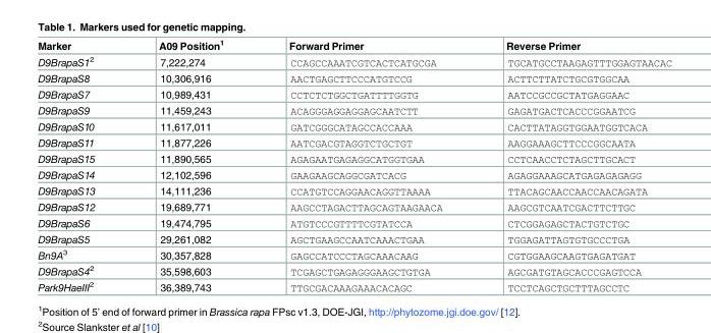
<table><thead><tr><td>Marker</td><td>A09 Position<sup>1</sup></td><td>Forward Primer</td><td>Reverse Primer</td></tr></thead><tbody><tr><td>D9BrapaS1<sup>2</sup></td><td>7,222,274</td><td>CCAGCCAAATCGTCACTCATGCGA</td><td>TGCATGCCTAAGAGTTTGGAGTAACAC</td></tr><tr><td>D9BrapaS8</td><td>10,306,916</td><td>AACTGAGCTTCCCATGTCCG</td><td>ACTTCTTATCTGCGTGGCAA</td></tr><tr><td>D9BrapaS7</td><td>10,989,431</td><td>CCTCTCTGGCTGATTTTGGTG</td><td>AATCCGCCGCTATGAGGAAC</td></tr><tr><td>D9BrapaS9</td><td>11,459,243</td><td>ACAGGGAGGAGGAGCAATCTT</td><td>GAGATGACTCACCCGGAATCG</td></tr><tr><td>D9BrapaS10</td><td>11,617,011</td><td>GATCGGGCATAGCCACCAAA</td><td>CACTTATAGGTGGAATGGTCACA</td></tr><tr><td>D9BrapaS11</td><td>11,877,226</td><td>AATCGACGTAGGTCTGCTGT</td><td>AAGGAAAGCTTCCCGGCAATA</td></tr><tr><td>D9BrapaS15</td><td>11,890,565</td><td>AGAGAATGAGAGGCATGGTGAA</td><td>CCTCAACCTCTAGCTTGCACT</td></tr><tr><td>D9BrapaS14</td><td>12,102,596</td><td>GAAGAAGCAGGCGATCACG</td><td>AGAGGAAAGCATGAGAGAGAGG</td></tr><tr><td>D9BrapaS13</td><td>14,111,236</td><td>CCATGTCCAGGAACAGGTTAAAA</td><td>TTACAGCAACCAACCAACAGATA</td></tr><tr><td>D9BrapaS12</td><td>19,689,771</td><td>AAGCCTAGACTTAGCAGTAAGAACA</td><td>AAGCGTCAATCGACTTCTTGC</td></tr><tr><td>D9BrapaS6</td><td>19,474,795</td><td>ATGTCCCGTTTTCGTATCCA</td><td>CTCGGAGAGCTACTGTCTGC</td></tr><tr><td>D9BrapaS5</td><td>29,261,082</td><td>AGCTGAAGCCAATCAAACTGAA</td><td>TGGAGATTAGTGTGCCCTGA</td></tr><tr><td>Bn9A<sup>3</sup></td><td>30,357,828</td><td>GAGCCATCCCTAGCAAACAAG</td><td>CGTGGAAGCAAGTGAGATGAT</td></tr><tr><td>D9BrapaS4<sup>2</sup></td><td>35,598,603</td><td>TCGAGCTGAGAGGGAAGCTGTGA</td><td>AGCGATGTAGCACCCGAGTCCA</td></tr><tr><td>Park9HaeIII<sup>2</sup></td><td>36,389,743</td><td>TTGCGACAAAGAAACACAGC</td><td>TCCTCAGCTGCTTTAGCCTC</td></tr></tbody></table>